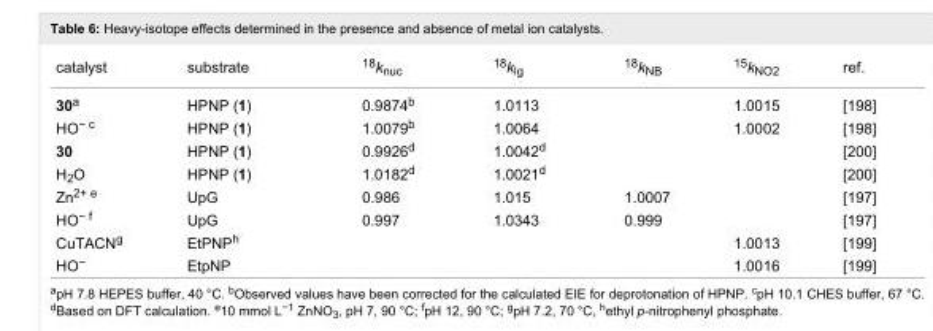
<table><tbody><tr><td>catalyst</td><td>substrate</td><td><sup>18</sup>k<sub>nuc</sub></td><td><sup>18</sup>k<sub>lg</sub></td><td><sup>18</sup>k<sub>NB</sub></td><td><sup>15</sup>k<sub>NO2</sub></td><td>ref.</td></tr><tr><td>30<sup>a</sup></td><td>HPNP (1)</td><td>0.9874<sup>b</sup></td><td>1.0113</td><td></td><td>1.0015</td><td>[198]</td></tr><tr><td>HO<sup>− c</sup></td><td>HPNP (1)</td><td>1.0079<sup>b</sup></td><td>1.0064</td><td></td><td>1.0002</td><td>[198]</td></tr><tr><td>30</td><td>HPNP (1)</td><td>0.9926<sup>d</sup></td><td>1.0042<sup>d</sup></td><td></td><td></td><td>[200]</td></tr><tr><td>H<sub>2</sub>O</td><td>HPNP (1)</td><td>1.0182<sup>d</sup></td><td>1.0021<sup>d</sup></td><td></td><td></td><td>[200]</td></tr><tr><td>Zn<sup>2+ e</sup></td><td>UpG</td><td>0.986</td><td>1.015</td><td>1.0007</td><td></td><td>[197]</td></tr><tr><td>HO<sup>− f</sup></td><td>UpG</td><td>0.997</td><td>1.0343</td><td>0.999</td><td></td><td>[197]</td></tr><tr><td>CuTACN<sup>g</sup></td><td>EtPNP<sup>h</sup></td><td></td><td></td><td></td><td>1.0013</td><td>[199]</td></tr><tr><td>HO<sup>−</sup></td><td>EtpNP</td><td></td><td></td><td></td><td>1.0016</td><td>[199]</td></tr></tbody></table>